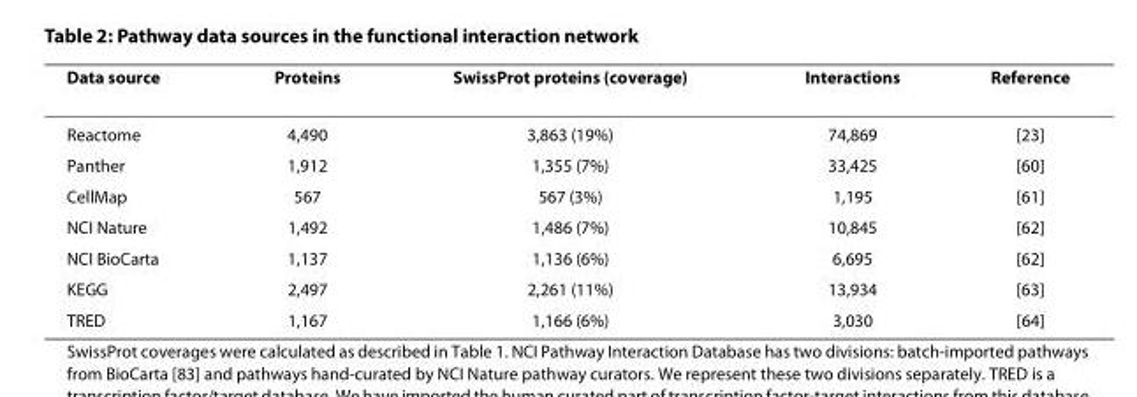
<table><thead><tr><td>Data source</td><td>Proteins</td><td>SwissProt proteins (coverage)</td><td>Interactions</td><td>Reference</td></tr></thead><tbody><tr><td>Reactome</td><td>4,490</td><td>3,863 (19%)</td><td>74,869</td><td>[23]</td></tr><tr><td>Panther</td><td>1,912</td><td>1,355 (7%)</td><td>33,425</td><td>[60]</td></tr><tr><td>CellMap</td><td>567</td><td>567 (3%)</td><td>1,195</td><td>[61]</td></tr><tr><td>NCI Nature</td><td>1,492</td><td>1,486 (7%)</td><td>10,845</td><td>[62]</td></tr><tr><td>NCI BioCarta</td><td>1,137</td><td>1,136 (6%)</td><td>6,695</td><td>[62]</td></tr><tr><td>KEGG</td><td>2,497</td><td>2,261 (11%)</td><td>13,934</td><td>[63]</td></tr><tr><td>TRED</td><td>1,167</td><td>1,166 (6%)</td><td>3,030</td><td>[64]</td></tr></tbody></table>